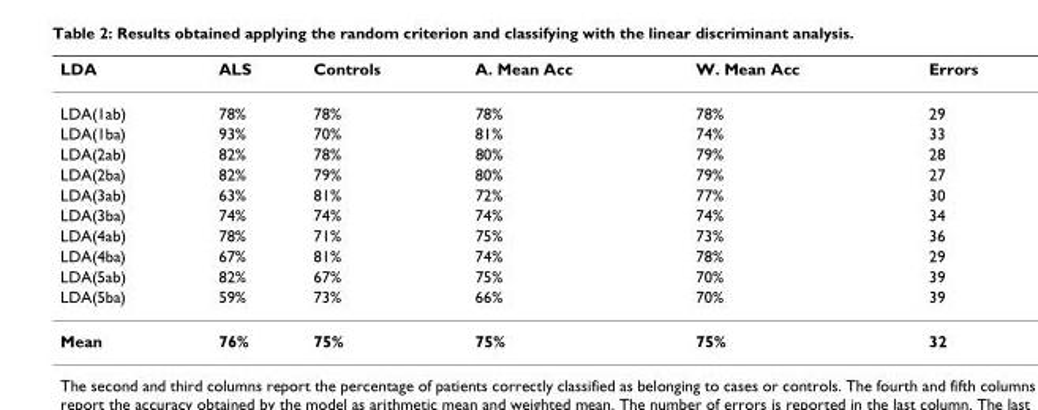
<table><thead><tr><td>LDA</td><td>ALS</td><td>Controls</td><td>A. Mean Acc</td><td>W. Mean Acc</td><td>Errors</td></tr></thead><tbody><tr><td>LDA(1ab)</td><td>78%</td><td>78%</td><td>78%</td><td>78%</td><td>29</td></tr><tr><td>LDA(1ba)</td><td>93%</td><td>70%</td><td>81%</td><td>74%</td><td>33</td></tr><tr><td>LDA(2ab)</td><td>82%</td><td>78%</td><td>80%</td><td>79%</td><td>28</td></tr><tr><td>LDA(2ba)</td><td>82%</td><td>79%</td><td>80%</td><td>79%</td><td>27</td></tr><tr><td>LDA(3ab)</td><td>63%</td><td>81%</td><td>72%</td><td>77%</td><td>30</td></tr><tr><td>LDA(3ba)</td><td>74%</td><td>74%</td><td>74%</td><td>74%</td><td>34</td></tr><tr><td>LDA(4ab)</td><td>78%</td><td>71%</td><td>75%</td><td>73%</td><td>36</td></tr><tr><td>LDA(4ba)</td><td>67%</td><td>81%</td><td>74%</td><td>78%</td><td>29</td></tr><tr><td>LDA(5ab)</td><td>82%</td><td>67%</td><td>75%</td><td>70%</td><td>39</td></tr><tr><td>LDA(5ba)</td><td>59%</td><td>73%</td><td>66%</td><td>70%</td><td>39</td></tr><tr><td>Mean</td><td>76%</td><td>75%</td><td>75%</td><td>75%</td><td>32</td></tr></tbody></table>